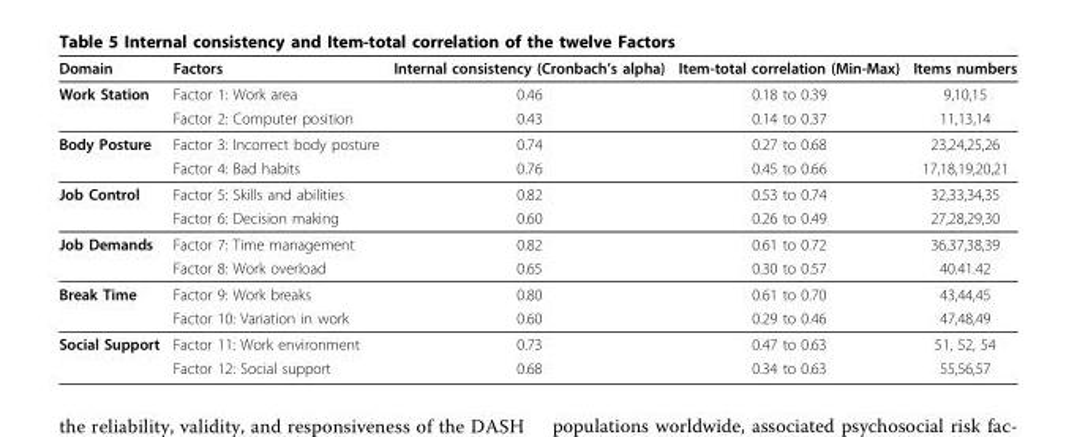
<table><thead><tr><td>Domain</td><td>Factors</td><td>Internal consistency (Cronbach’s alpha)</td><td>Item-total correlation (Min-Max)</td><td>Items numbers</td></tr></thead><tbody><tr><td rowspan="2">Work Station</td><td>Factor 1: Work area</td><td>0.46</td><td>0.18 to 0.39</td><td>9,10,15</td></tr><tr><td>Factor 2: Computer position</td><td>0.43</td><td>0.14 to 0.37</td><td>11,13,14</td></tr><tr><td rowspan="2">Body Posture</td><td>Factor 3: Incorrect body posture</td><td>0.74</td><td>0.27 to 0.68</td><td>23,24,25,26</td></tr><tr><td>Factor 4: Bad habits</td><td>0.76</td><td>0.45 to 0.66</td><td>17,18,19,20,21</td></tr><tr><td rowspan="2">Job Control</td><td>Factor 5: Skills and abilities</td><td>0.82</td><td>0.53 to 0.74</td><td>32,33,34,35</td></tr><tr><td>Factor 6: Decision making</td><td>0.60</td><td>0.26 to 0.49</td><td>27,28,29,30</td></tr><tr><td rowspan="2">Job Demands</td><td>Factor 7: Time management</td><td>0.82</td><td>0.61 to 0.72</td><td>36,37,38,39</td></tr><tr><td>Factor 8: Work overload</td><td>0.65</td><td>0.30 to 0.57</td><td>40.41.42</td></tr><tr><td rowspan="2">Break Time</td><td>Factor 9: Work breaks</td><td>0.80</td><td>0.61 to 0.70</td><td>43,44,45</td></tr><tr><td>Factor 10: Variation in work</td><td>0.60</td><td>0.29 to 0.46</td><td>47,48,49</td></tr><tr><td rowspan="2">Social Support</td><td>Factor 11: Work environment</td><td>0.73</td><td>0.47 to 0.63</td><td>51, 52, 54</td></tr><tr><td>Factor 12: Social support</td><td>0.68</td><td>0.34 to 0.63</td><td>55,56,57</td></tr></tbody></table>